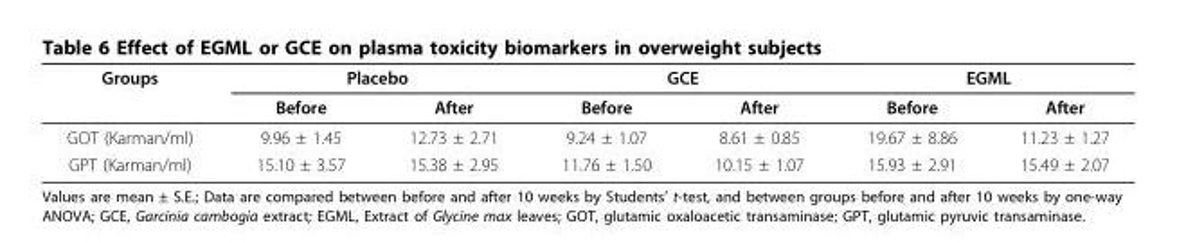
<table><thead><tr><td rowspan="2">Groups</td><td colspan="2">Placebo</td><td colspan="2">GCE</td><td colspan="2">EGML</td></tr><tr><td>Before</td><td>After</td><td>Before</td><td>After</td><td>Before</td><td>After</td></tr></thead><tbody><tr><td>GOT (Karman/ml)</td><td>9.96 ± 1.45</td><td>12.73 ± 2.71</td><td>9.24 ± 1.07</td><td>8.61 ± 0.85</td><td>19.67 ± 8.86</td><td>11.23 ± 1.27</td></tr><tr><td>GPT (Karman/ml)</td><td>15.10 ± 3.57</td><td>15.38 ± 2.95</td><td>11.76 ± 1.50</td><td>10.15 ± 1.07</td><td>15.93 ± 2.91</td><td>15.49 ± 2.07</td></tr></tbody></table>